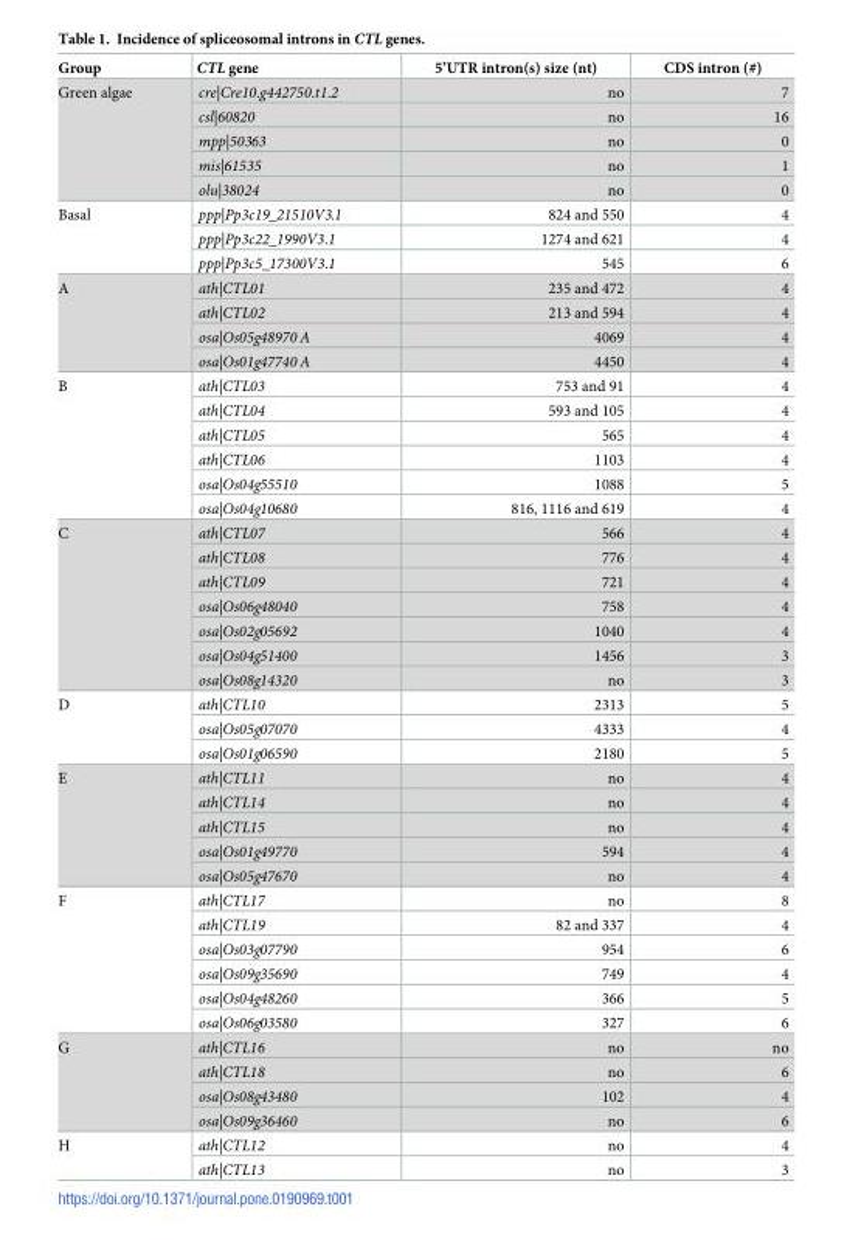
<table><thead><tr><td>Group</td><td>CTL gene</td><td>5’UTR intron(s) size (nt)</td><td>CDS intron (#)</td></tr></thead><tbody><tr><td rowspan="5">Green algae</td><td>cre|Cre10.g442750.t1.2</td><td>no</td><td>7</td></tr><tr><td>csl|60820</td><td>no</td><td>16</td></tr><tr><td>mpp|50363</td><td>no</td><td>0</td></tr><tr><td>mis|61535</td><td>no</td><td>1</td></tr><tr><td>olu|38024</td><td>no</td><td>0</td></tr><tr><td rowspan="3">Basal</td><td>ppp|Pp3c19_21510V3.1</td><td>824 and 550</td><td>4</td></tr><tr><td>ppp|Pp3c22_1990V3.1</td><td>1274 and 621</td><td>4</td></tr><tr><td>ppp|Pp3c5_17300V3.1</td><td>545</td><td>6</td></tr><tr><td rowspan="4">A</td><td>ath|CTL01</td><td>235 and 472</td><td>4</td></tr><tr><td>ath|CTL02</td><td>213 and 594</td><td>4</td></tr><tr><td>osa|Os05g48970 A</td><td>4069</td><td>4</td></tr><tr><td>osa|Os01g47740 A</td><td>4450</td><td>4</td></tr><tr><td rowspan="6">B</td><td>ath|CTL03</td><td>753 and 91</td><td>4</td></tr><tr><td>ath|CTL04</td><td>593 and 105</td><td>4</td></tr><tr><td>ath|CTL05</td><td>565</td><td>4</td></tr><tr><td>ath|CTL06</td><td>1103</td><td>4</td></tr><tr><td>osa|Os04g55510</td><td>1088</td><td>5</td></tr><tr><td>osa|Os04g10680</td><td>816, 1116 and 619</td><td>4</td></tr><tr><td rowspan="7">C</td><td>ath|CTL07</td><td>566</td><td>4</td></tr><tr><td>ath|CTL08</td><td>776</td><td>4</td></tr><tr><td>ath|CTL09</td><td>721</td><td>4</td></tr><tr><td>osa|Os06g48040</td><td>758</td><td>4</td></tr><tr><td>osa|Os02g05692</td><td>1040</td><td>4</td></tr><tr><td>osa|Os04g51400</td><td>1456</td><td>3</td></tr><tr><td>osa|Os08g14320</td><td>no</td><td>3</td></tr><tr><td rowspan="3">D</td><td>ath|CTL10</td><td>2313</td><td>5</td></tr><tr><td>osa|Os05g07070</td><td>4333</td><td>4</td></tr><tr><td>osa|Os01g06590</td><td>2180</td><td>5</td></tr><tr><td rowspan="5">E</td><td>ath|CTL11</td><td>no</td><td>4</td></tr><tr><td>ath|CTL14</td><td>no</td><td>4</td></tr><tr><td>ath|CTL15</td><td>no</td><td>4</td></tr><tr><td>osa|Os01g49770</td><td>594</td><td>4</td></tr><tr><td>osa|Os05g47670</td><td>no</td><td>4</td></tr><tr><td rowspan="6">F</td><td>ath|CTL17</td><td>no</td><td>8</td></tr><tr><td>ath|CTL19</td><td>82 and 337</td><td>4</td></tr><tr><td>osa|Os03g07790</td><td>954</td><td>6</td></tr><tr><td>osa|Os09g35690</td><td>749</td><td>4</td></tr><tr><td>osa|Os04g48260</td><td>366</td><td>5</td></tr><tr><td>osa|Os06g03580</td><td>327</td><td>6</td></tr><tr><td rowspan="4">G</td><td>ath|CTL16</td><td>no</td><td>no</td></tr><tr><td>ath|CTL18</td><td>no</td><td>6</td></tr><tr><td>osa|Os08g43480</td><td>102</td><td>4</td></tr><tr><td>osa|Os09g36460</td><td>no</td><td>6</td></tr><tr><td rowspan="2">H</td><td>ath|CTL12</td><td>no</td><td>4</td></tr><tr><td>ath|CTL13</td><td>no</td><td>3</td></tr></tbody></table>